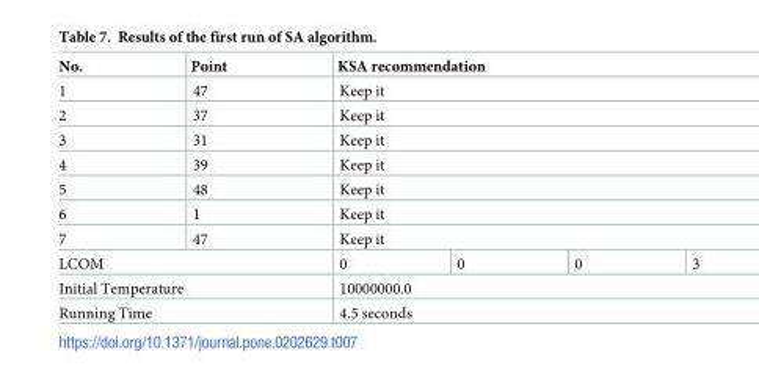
<table><thead><tr><td>No.</td><td>Point</td><td colspan="4">KSA recommendation</td></tr></thead><tbody><tr><td>1</td><td>47</td><td colspan="4">Keep it</td></tr><tr><td>2</td><td>37</td><td colspan="4">Keep it</td></tr><tr><td>3</td><td>31</td><td colspan="4">Keep it</td></tr><tr><td>4</td><td>39</td><td colspan="4">Keep it</td></tr><tr><td>5</td><td>48</td><td colspan="4">Keep it</td></tr><tr><td>6</td><td>1</td><td colspan="4">Keep it</td></tr><tr><td>7</td><td>47</td><td colspan="4">Keep it</td></tr><tr><td colspan="2">LCOM</td><td>0</td><td>0</td><td>0</td><td>3</td></tr><tr><td colspan="2">Initial Temperature</td><td colspan="4">10000000.0</td></tr><tr><td colspan="2">Running Time</td><td colspan="4">4.5 seconds</td></tr></tbody></table>